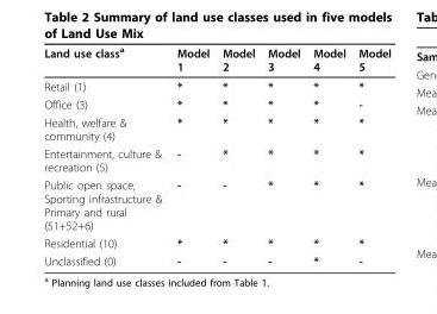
<table><thead><tr><td>Land use class<sup>a</sup></td><td>Model 1</td><td>Model 2</td><td>Model 3</td><td>Model 4</td><td>Model 5</td></tr></thead><tbody><tr><td>Retail (1)</td><td>*</td><td>*</td><td>*</td><td>*</td><td>*</td></tr><tr><td>Office (3)</td><td>*</td><td>*</td><td>*</td><td>*</td><td>-</td></tr><tr><td>Health, welfare &amp; community (4)</td><td>*</td><td>*</td><td>*</td><td>*</td><td>*</td></tr><tr><td>Entertainment, culture &amp; recreation (5)</td><td>-</td><td>*</td><td>*</td><td>*</td><td>*</td></tr><tr><td>Public open space, Sporting infrastructure &amp; Primary and rural (51+52+6)</td><td>-</td><td>-</td><td>*</td><td>*</td><td>*</td></tr><tr><td>Residential (10)</td><td>*</td><td>*</td><td>*</td><td>*</td><td>*</td></tr><tr><td>Unclassified (0)</td><td>-</td><td>-</td><td>-</td><td>*</td><td>-</td></tr></tbody></table>